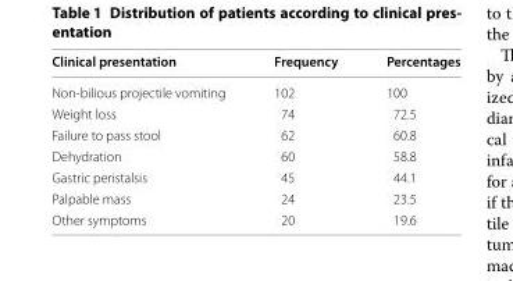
<table><thead><tr><td>Clinical presentation</td><td>Frequency</td><td>Percentages</td></tr></thead><tbody><tr><td>Non-bilious projectile vomiting</td><td>102</td><td>100</td></tr><tr><td>Weight loss</td><td>74</td><td>72.5</td></tr><tr><td>Failure to pass stool</td><td>62</td><td>60.8</td></tr><tr><td>Dehydration</td><td>60</td><td>58.8</td></tr><tr><td>Gastric peristalsis</td><td>45</td><td>44.1</td></tr><tr><td>Palpable mass</td><td>24</td><td>23.5</td></tr><tr><td>Other symptoms</td><td>20</td><td>19.6</td></tr></tbody></table>